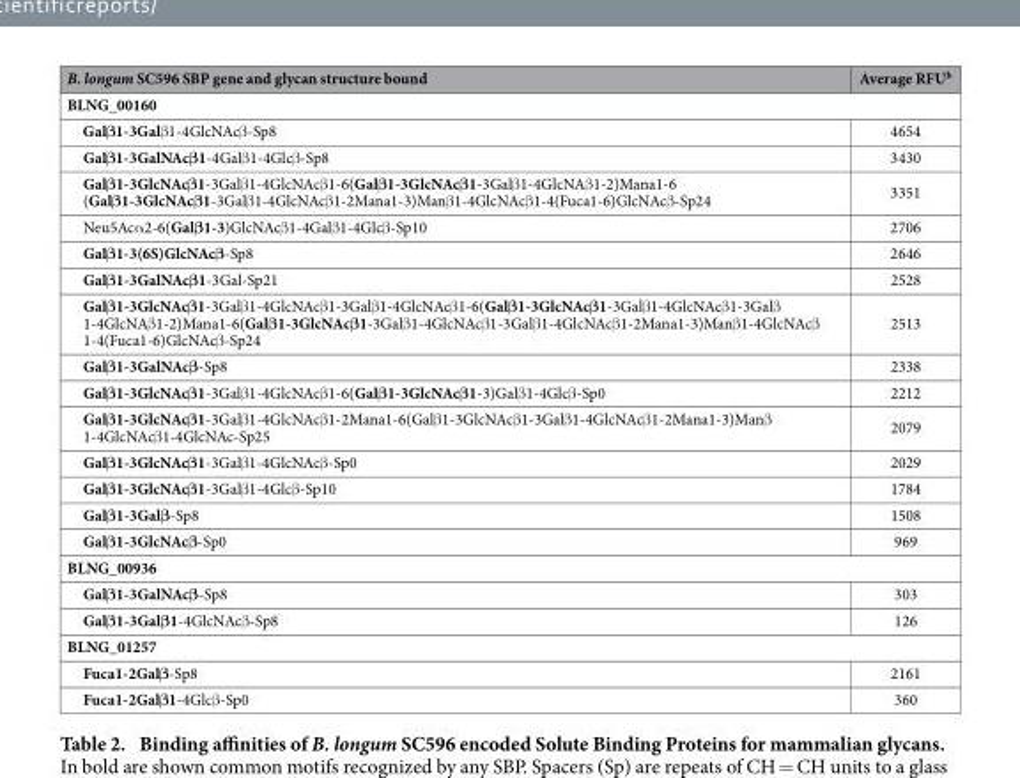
<table><thead><tr><td>B. longum SC596 SBP gene and glycan structure bound</td><td>Average RFU<sup>b</sup></td></tr></thead><tbody><tr><td colspan="2">BLNG_00160</td></tr><tr><td>Galβ1-3Galβ 1-4GlcNAcβ -Sp8</td><td>4654</td></tr><tr><td>Galβ1-3GalNAcβ1-4Galβ 1-4Glcβ -Sp8</td><td>3430</td></tr><tr><td>Galβ1-3GlcNAcβ1-3Galβ 1-4GlcNAcβ 1-6(Galβ1-3GlcNAcβ1-3Galβ 1-4GlcNAβ 1-2)Mana1-6 (Galβ1-3GlcNAcβ1-3Galβ 1-4GlcNAcβ 1-2Mana1-3)Manβ 1-4GlcNAcβ 1-4(Fuca1-6)GlcNAcβ -Sp24</td><td>3351</td></tr><tr><td>Neu5Acα 2-6(Galβ1-3)GlcNAcβ 1-4Galβ 1-4Glcβ -Sp10</td><td>2706</td></tr><tr><td>Galβ1-3(6S)GlcNAcβ-Sp8</td><td>2646</td></tr><tr><td>Galβ1-3GalNAcβ1-3Gal-Sp21</td><td>2528</td></tr><tr><td>Galβ1-3GlcNAcβ1-3Galβ 1-4GlcNAcβ 1-3Galβ 1-4GlcNAcβ 1-6(Galβ1-3GlcNAcβ1-3Galβ 1-4GlcNAcβ 1-3Galβ 1-4GlcNAβ 1-2)Mana1-6(Galβ1-3GlcNAcβ1-3Galβ 1-4GlcNAcβ 1-3Galβ 1-4GlcNAcβ 1-2Mana1-3)Manβ 1-4GlcNAcβ 1-4(Fuca1-6)GlcNAcβ -Sp24</td><td>2513</td></tr><tr><td>Galβ1-3GalNAcβ-Sp8</td><td>2338</td></tr><tr><td>Galβ1-3GlcNAcβ1-3Galβ 1-4GlcNAcβ 1-6(Galβ1-3GlcNAcβ1-3)Galβ 1-4Glcβ -Sp0</td><td>2212</td></tr><tr><td>Galβ1-3GlcNAcβ1-3Galβ 1-4GlcNAcβ 1-2Mana1-6(Galβ 1-3GlcNAcβ 1-3Galβ 1-4GlcNAcβ 1-2Mana1-3)Manβ 1-4GlcNAcβ 1-4GlcNAc-Sp25</td><td>2079</td></tr><tr><td>Galβ1-3GlcNAcβ1-3Galβ 1-4GlcNAcβ -Sp0</td><td>2029</td></tr><tr><td>Galβ1-3GlcNAcβ1-3Galβ 1-4Glcβ -Sp10</td><td>1784</td></tr><tr><td>Galβ1-3Galβ-Sp8</td><td>1508</td></tr><tr><td>Galβ1-3GlcNAcβ-Sp0</td><td>969</td></tr><tr><td colspan="2">BLNG_00936</td></tr><tr><td>Galβ1-3GalNAcβ-Sp8</td><td>303</td></tr><tr><td>Galβ1-3Galβ1-4GlcNAcβ -Sp8</td><td>126</td></tr><tr><td colspan="2">BLNG_01257</td></tr><tr><td>Fuca1-2Galβ-Sp8</td><td>2161</td></tr><tr><td>Fuca1-2Galβ1-4Glcβ -Sp0</td><td>360</td></tr></tbody></table>